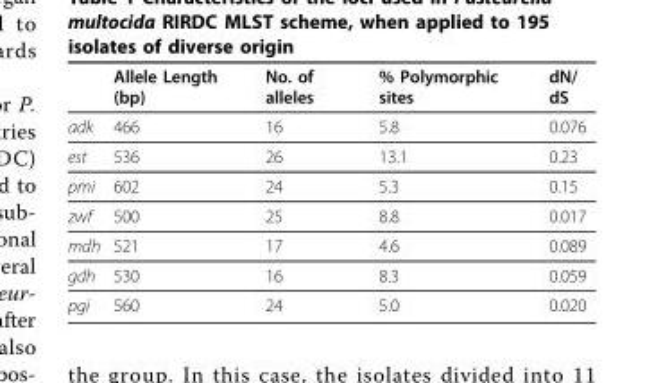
<table><thead><tr><td></td><td>Allele Length (bp)</td><td>No. of alleles</td><td>% Polymorphic sites</td><td>dN/ dS</td></tr></thead><tbody><tr><td>adk</td><td>466</td><td>16</td><td>5.8</td><td>0.076</td></tr><tr><td>est</td><td>536</td><td>26</td><td>13.1</td><td>0.23</td></tr><tr><td>pmi</td><td>602</td><td>24</td><td>5.3</td><td>0.15</td></tr><tr><td>zwf</td><td>500</td><td>25</td><td>8.8</td><td>0.017</td></tr><tr><td>mdh</td><td>521</td><td>17</td><td>4.6</td><td>0.089</td></tr><tr><td>gdh</td><td>530</td><td>16</td><td>8.3</td><td>0.059</td></tr><tr><td>pgi</td><td>560</td><td>24</td><td>5.0</td><td>0.020</td></tr></tbody></table>